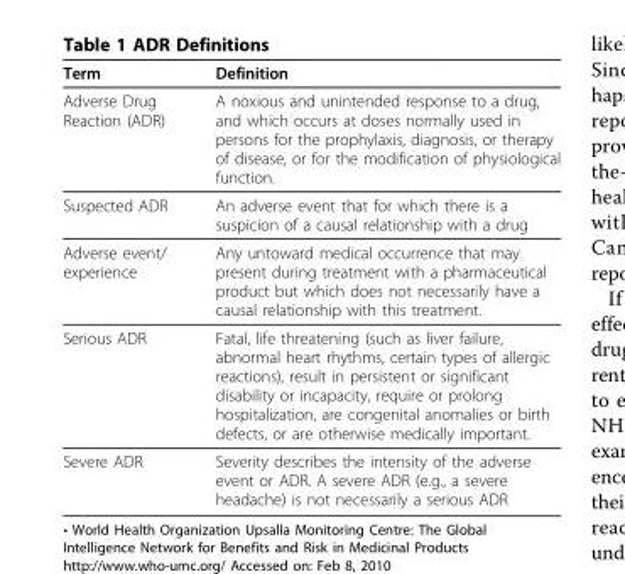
<table><thead><tr><td>Term</td><td>Definition</td></tr></thead><tbody><tr><td>Adverse Drug Reaction (ADR)</td><td>A noxious and unintended response to a drug, and which occurs at doses normally used in persons for the prophylaxis, diagnosis, or therapy of disease, or for the modification of physiological function.</td></tr><tr><td>Suspected ADR</td><td>An adverse event that for which there is a suspicion of a causal relationship with a drug</td></tr><tr><td>Adverse event/ experience</td><td>Any untoward medical occurrence that may present during treatment with a pharmaceutical product but which does not necessarily have a causal relationship with this treatment.</td></tr><tr><td>Serious ADR</td><td>Fatal, life threatening (such as liver failure, abnormal heart rhythms, certain types of allergic reactions), result in persistent or significant disability or incapacity, require or prolong hospitalization, are congenital anomalies or birth defects, or are otherwise medically important.</td></tr><tr><td>Severe ADR</td><td>Severity describes the intensity of the adverse event or ADR. A severe ADR (e.g., a severe headache) is not necessarily a serious ADR</td></tr></tbody></table>